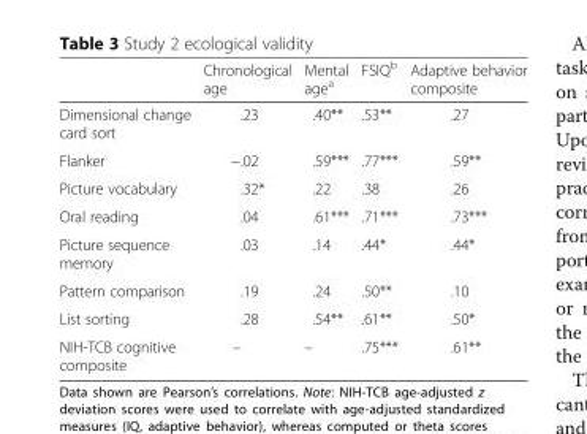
<table><thead><tr><td></td><td>Chronological age</td><td>Mental age<sup>a</sup></td><td>FSIQ<sup>b</sup></td><td>Adaptive behavior composite</td></tr></thead><tbody><tr><td>Dimensional change card sort</td><td>.23</td><td>.40**</td><td>.53**</td><td>.27</td></tr><tr><td>Flanker</td><td>−.02</td><td>.59***</td><td>.77***</td><td>.59**</td></tr><tr><td>Picture vocabulary</td><td>.32*</td><td>.22</td><td>.38</td><td>.26</td></tr><tr><td>Oral reading</td><td>.04</td><td>.61***</td><td>.71***</td><td>.73***</td></tr><tr><td>Picture sequence memory</td><td>.03</td><td>.14</td><td>.44*</td><td>.44*</td></tr><tr><td>Pattern comparison</td><td>.19</td><td>.24</td><td>.50**</td><td>.10</td></tr><tr><td>List sorting</td><td>.28</td><td>.54**</td><td>.61**</td><td>.50*</td></tr><tr><td>NIH-TCB cognitive composite</td><td>–</td><td>–</td><td>.75***</td><td>.61**</td></tr></tbody></table>